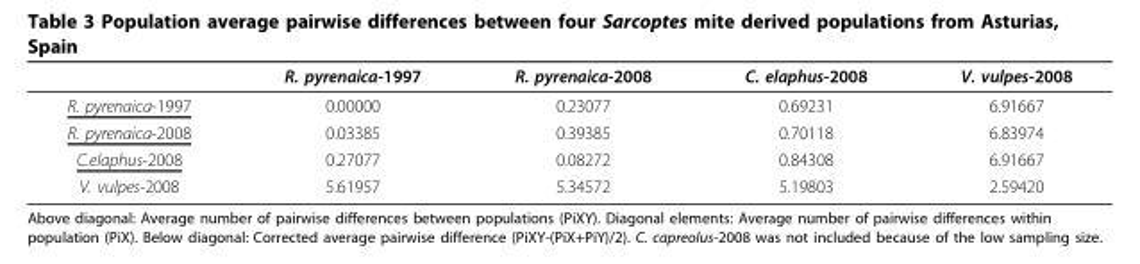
<table><thead><tr><td></td><td>R. pyrenaica-1997</td><td>R. pyrenaica-2008</td><td>C. elaphus-2008</td><td>V. vulpes-2008</td></tr></thead><tbody><tr><td>R. pyrenaica-1997</td><td>0.00000</td><td>0.23077</td><td>0.69231</td><td>6.91667</td></tr><tr><td>R. pyrenaica-2008</td><td>0.03385</td><td>0.39385</td><td>0.70118</td><td>6.83974</td></tr><tr><td>C.elaphus-2008</td><td>0.27077</td><td>0.08272</td><td>0.84308</td><td>6.91667</td></tr><tr><td>V. vulpes-2008</td><td>5.61957</td><td>5.34572</td><td>5.19803</td><td>2.59420</td></tr></tbody></table>